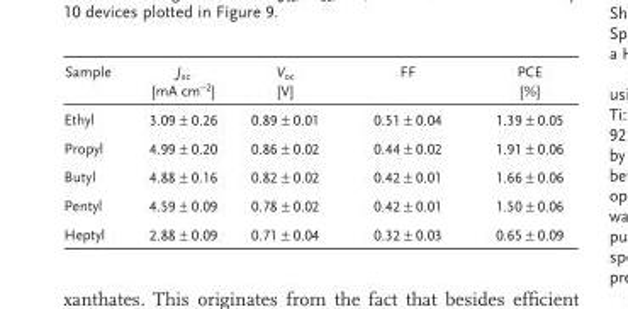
<table><thead><tr><td>Sample</td><td>J <sub>sc</sub> [mA cm <sup>−2</sup> ]</td><td>V <sub>oc</sub> [V]</td><td>FF</td><td>PCE [%]</td></tr></thead><tbody><tr><td>Ethyl</td><td>3.09 ± 0.26</td><td>0.89 ± 0.01</td><td>0.51 ± 0.04</td><td>1.39 ± 0.05</td></tr><tr><td>Propyl</td><td>4.99 ± 0.20</td><td>0.86 ± 0.02</td><td>0.44 ± 0.02</td><td>1.91 ± 0.06</td></tr><tr><td>Butyl</td><td>4.88 ± 0.16</td><td>0.82 ± 0.02</td><td>0.42 ± 0.01</td><td>1.66 ± 0.06</td></tr><tr><td>Pentyl</td><td>4.59 ± 0.09</td><td>0.78 ± 0.02</td><td>0.42 ± 0.01</td><td>1.50 ± 0.06</td></tr><tr><td>Heptyl</td><td>2.88 ± 0.09</td><td>0.71 ± 0.04</td><td>0.32 ± 0.03</td><td>0.65 ± 0.09</td></tr></tbody></table>